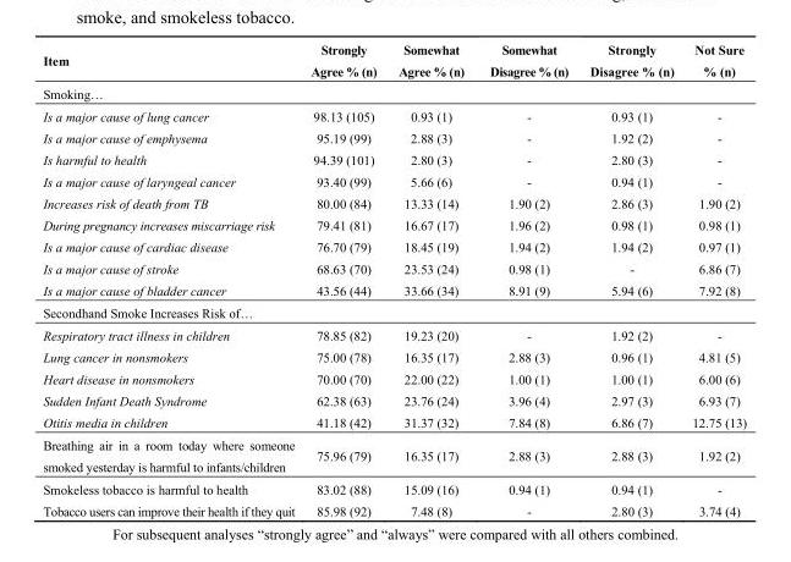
<table><thead><tr><td>Item</td><td>Strongly Agree % (n)</td><td>Somewhat Agree % (n)</td><td>Somewhat Disagree % (n)</td><td>Strongly Disagree % (n)</td><td>Not Sure % (n)</td></tr></thead><tbody><tr><td colspan="6">Smoking…</td></tr><tr><td>Is a major cause of lung cancer</td><td>98.13 (105)</td><td>0.93 (1)</td><td>-</td><td>0.93 (1)</td><td>-</td></tr><tr><td>Is a major cause of emphysema</td><td>95.19 (99)</td><td>2.88 (3)</td><td>-</td><td>1.92 (2)</td><td>-</td></tr><tr><td>Is harmful to health</td><td>94.39 (101)</td><td>2.80 (3)</td><td>-</td><td>2.80 (3)</td><td>-</td></tr><tr><td>Is a major cause of laryngeal cancer</td><td>93.40 (99)</td><td>5.66 (6)</td><td>-</td><td>0.94 (1)</td><td>-</td></tr><tr><td>Increases risk of death from TB</td><td>80.00 (84)</td><td>13.33 (14)</td><td>1.90 (2)</td><td>2.86 (3)</td><td>1.90 (2)</td></tr><tr><td>During pregnancy increases miscarriage risk</td><td>79.41 (81)</td><td>16.67 (17)</td><td>1.96 (2)</td><td>0.98 (1)</td><td>0.98 (1)</td></tr><tr><td>Is a major cause of cardiac disease</td><td>76.70 (79)</td><td>18.45 (19)</td><td>1.94 (2)</td><td>1.94 (2)</td><td>0.97 (1)</td></tr><tr><td>Is a major cause of stroke</td><td>68.63 (70)</td><td>23.53 (24)</td><td>0.98 (1)</td><td>-</td><td>6.86 (7)</td></tr><tr><td>Is a major cause of bladder cancer</td><td>43.56 (44)</td><td>33.66 (34)</td><td>8.91 (9)</td><td>5.94 (6)</td><td>7.92 (8)</td></tr><tr><td colspan="6">Secondhand Smoke Increases Risk of…</td></tr><tr><td>Respiratory tract illness in children</td><td>78.85 (82)</td><td>19.23 (20)</td><td>-</td><td>1.92 (2)</td><td>-</td></tr><tr><td>Lung cancer in nonsmokers</td><td>75.00 (78)</td><td>16.35 (17)</td><td>2.88 (3)</td><td>0.96 (1)</td><td>4.81 (5)</td></tr><tr><td>Heart disease in nonsmokers</td><td>70.00 (70)</td><td>22.00 (22)</td><td>1.00 (1)</td><td>1.00 (1)</td><td>6.00 (6)</td></tr><tr><td>Sudden Infant Death Syndrome</td><td>62.38 (63)</td><td>23.76 (24)</td><td>3.96 (4)</td><td>2.97 (3)</td><td>6.93 (7)</td></tr><tr><td>Otitis media in children</td><td>41.18 (42)</td><td>31.37 (32)</td><td>7.84 (8)</td><td>6.86 (7)</td><td>12.75 (13)</td></tr><tr><td>Breathing air in a room today where someone smoked yesterday is harmful to infants/children</td><td>75.96 (79)</td><td>16.35 (17)</td><td>2.88 (3)</td><td>2.88 (3)</td><td>1.92 (2)</td></tr><tr><td>Smokeless tobacco is harmful to health</td><td>83.02 (88)</td><td>15.09 (16)</td><td>0.94 (1)</td><td>0.94 (1)</td><td>-</td></tr><tr><td>Tobacco users can improve their health if they quit</td><td>85.98 (92)</td><td>7.48 (8)</td><td>-</td><td>2.80 (3)</td><td>3.74 (4)</td></tr></tbody></table>